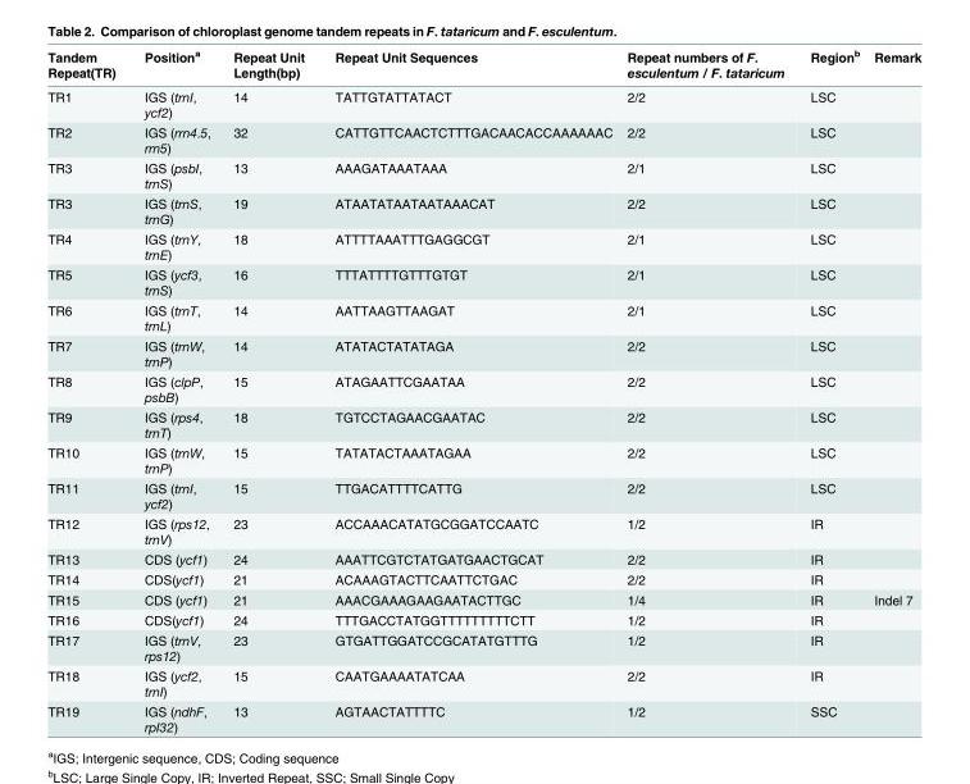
<table><thead><tr><td>Tandem Repeat(TR)</td><td>Position<sup>a</sup></td><td>Repeat Unit Length(bp)</td><td>Repeat Unit Sequences</td><td>Repeat numbers of F. esculentum / F. tataricum</td><td>Region<sup>b</sup></td><td>Remark</td></tr></thead><tbody><tr><td>TR1</td><td>IGS (trnI, ycf2)</td><td>14</td><td>TATTGTATTATACT</td><td>2/2</td><td>LSC</td><td></td></tr><tr><td>TR2</td><td>IGS (rrn4.5, rrn5)</td><td>32</td><td>CATTGTTCAACTCTTTGACAACACCAAAAAAC</td><td>2/2</td><td>LSC</td><td></td></tr><tr><td>TR3</td><td>IGS (psbI, trnS)</td><td>13</td><td>AAAGATAAATAAA</td><td>2/1</td><td>LSC</td><td></td></tr><tr><td>TR3</td><td>IGS (trnS, trnG)</td><td>19</td><td>ATAATATAATAATAAACAT</td><td>2/2</td><td>LSC</td><td></td></tr><tr><td>TR4</td><td>IGS (trnY, trnE)</td><td>18</td><td>ATTTTAAATTTGAGGCGT</td><td>2/1</td><td>LSC</td><td></td></tr><tr><td>TR5</td><td>IGS (ycf3, trnS)</td><td>16</td><td>TTTATTTTGTTTGTGT</td><td>2/1</td><td>LSC</td><td></td></tr><tr><td>TR6</td><td>IGS (trnT, trnL)</td><td>14</td><td>AATTAAGTTAAGAT</td><td>2/1</td><td>LSC</td><td></td></tr><tr><td>TR7</td><td>IGS (trnW, trnP)</td><td>14</td><td>ATATACTATATAGA</td><td>2/2</td><td>LSC</td><td></td></tr><tr><td>TR8</td><td>IGS (clpP, psbB)</td><td>15</td><td>ATAGAATTCGAATAA</td><td>2/2</td><td>LSC</td><td></td></tr><tr><td>TR9</td><td>IGS (rps4, trnT)</td><td>18</td><td>TGTCCTAGAACGAATAC</td><td>2/2</td><td>LSC</td><td></td></tr><tr><td>TR10</td><td>IGS (trnW, trnP)</td><td>15</td><td>TATATACTAAATAGAA</td><td>2/2</td><td>LSC</td><td></td></tr><tr><td>TR11</td><td>IGS (trnI, ycf2)</td><td>15</td><td>TTGACATTTTCATTG</td><td>2/2</td><td>LSC</td><td></td></tr><tr><td>TR12</td><td>IGS (rps12, trnV)</td><td>23</td><td>ACCAAACATATGCGGATCCAATC</td><td>1/2</td><td>IR</td><td></td></tr><tr><td>TR13</td><td>CDS (ycf1)</td><td>24</td><td>AAATTCGTCTATGATGAACTGCAT</td><td>2/2</td><td>IR</td><td></td></tr><tr><td>TR14</td><td>CDS(ycf1)</td><td>21</td><td>ACAAAGTACTTCAATTCTGAC</td><td>2/2</td><td>IR</td><td></td></tr><tr><td>TR15</td><td>CDS (ycf1)</td><td>21</td><td>AAACGAAAGAAGAATACTTGC</td><td>1/4</td><td>IR</td><td>Indel 7</td></tr><tr><td>TR16</td><td>CDS(ycf1)</td><td>24</td><td>TTTGACCTATGGTTTTTTTTTCTT</td><td>1/2</td><td>IR</td><td></td></tr><tr><td>TR17</td><td>IGS (trnV, rps12)</td><td>23</td><td>GTGATTGGATCCGCATATGTTTG</td><td>1/2</td><td>IR</td><td></td></tr><tr><td>TR18</td><td>IGS (ycf2, trnI)</td><td>15</td><td>CAATGAAAATATCAA</td><td>2/2</td><td>IR</td><td></td></tr><tr><td>TR19</td><td>IGS (ndhF, rpI32)</td><td>13</td><td>AGTAACTATTTTC</td><td>1/2</td><td>SSC</td><td></td></tr></tbody></table>